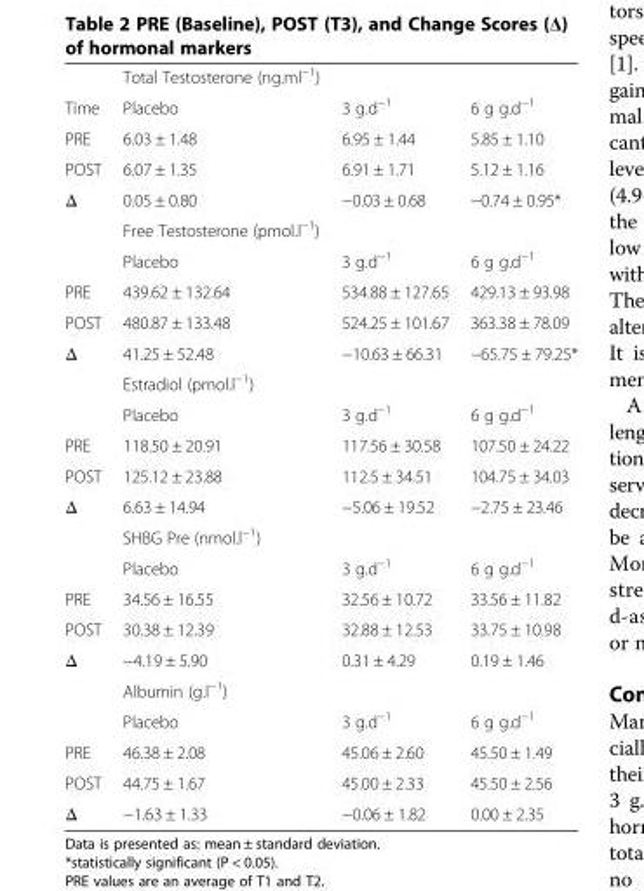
<table><thead><tr><td></td><td>Total Testosterone (ng.ml<sup>−1</sup>)</td><td></td><td></td></tr></thead><tbody><tr><td>Time</td><td>Placebo</td><td>3 g.d<sup>−1</sup></td><td>6 g g.d<sup>−1</sup></td></tr><tr><td>PRE</td><td>6.03 ± 1.48</td><td>6.95 ± 1.44</td><td>5.85 ± 1.10</td></tr><tr><td>POST</td><td>6.07 ± 1.35</td><td>6.91 ± 1.71</td><td>5.12 ± 1.16</td></tr><tr><td rowspan="3">Δ</td><td>0.05 ± 0.80</td><td>−0.03 ± 0.68</td><td>−0.74 ± 0.95*</td></tr><tr><td colspan="3">Free Testosterone (pmol.l<sup>−1</sup>)</td></tr><tr><td>Placebo</td><td>3 g.d<sup>−1</sup></td><td>6 g g.d<sup>−1</sup></td></tr><tr><td>PRE</td><td>439.62 ± 132.64</td><td>534.88 ± 127.65</td><td>429.13 ± 93.98</td></tr><tr><td>POST</td><td>480.87 ± 133.48</td><td>524.25 ± 101.67</td><td>363.38 ± 78.09</td></tr><tr><td rowspan="3">Δ</td><td>41.25 ± 52.48</td><td>−10.63 ± 66.31</td><td>−65.75 ± 79.25*</td></tr><tr><td colspan="3">Estradiol (pmol.l<sup>−1</sup>)</td></tr><tr><td>Placebo</td><td>3 g.d<sup>−1</sup></td><td>6 g g.d<sup>−1</sup></td></tr><tr><td>PRE</td><td>118.50 ± 20.91</td><td>117.56 ± 30.58</td><td>107.50 ± 24.22</td></tr><tr><td>POST</td><td>125.12 ± 23.88</td><td>112.5 ± 34.51</td><td>104.75 ± 34.03</td></tr><tr><td rowspan="3">Δ</td><td>6.63 ± 14.94</td><td>−5.06 ± 19.52</td><td>−2.75 ± 23.46</td></tr><tr><td colspan="3">SHBG Pre (nmol.l<sup>−1</sup>)</td></tr><tr><td>Placebo</td><td>3 g.d<sup>−1</sup></td><td>6 g g.d<sup>−1</sup></td></tr><tr><td>PRE</td><td>34.56 ± 16.55</td><td>32.56 ± 10.72</td><td>33.56 ± 11.82</td></tr><tr><td>POST</td><td>30.38 ± 12.39</td><td>32.88 ± 12.53</td><td>33.75 ± 10.98</td></tr><tr><td rowspan="3">Δ</td><td>−4.19 ± 5.90</td><td>0.31 ± 4.29</td><td>0.19 ± 1.46</td></tr><tr><td colspan="3">Albumin (g.l<sup>−1</sup>)</td></tr><tr><td>Placebo</td><td>3 g.d<sup>−1</sup></td><td>6 g g.d<sup>−1</sup></td></tr><tr><td>PRE</td><td>46.38 ± 2.08</td><td>45.06 ± 2.60</td><td>45.50 ± 1.49</td></tr><tr><td>POST</td><td>44.75 ± 1.67</td><td>45.00 ± 2.33</td><td>45.50 ± 2.56</td></tr><tr><td>Δ</td><td>−1.63 ± 1.33</td><td>−0.06 ± 1.82</td><td>0.00 ± 2.35</td></tr></tbody></table>